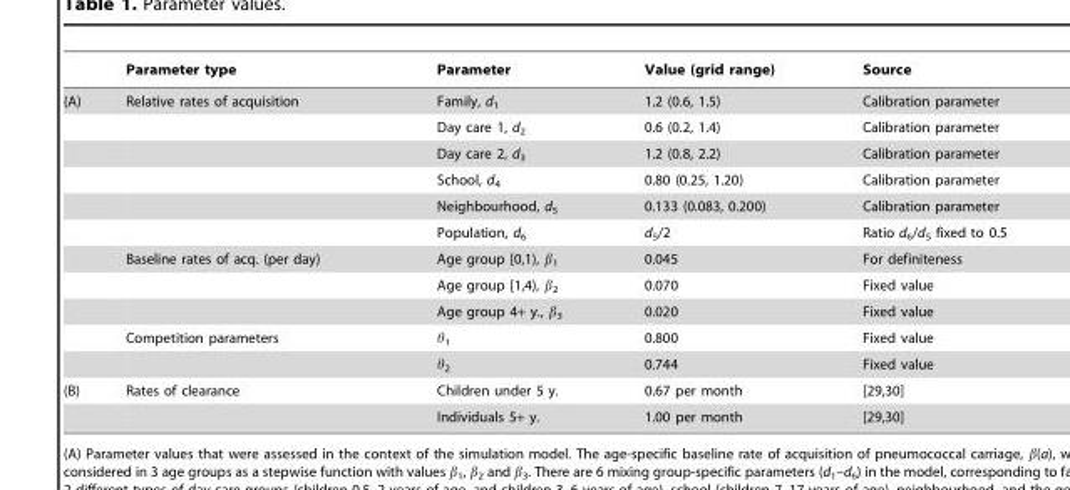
<table><thead><tr><td></td><td>Parameter type</td><td>Parameter</td><td>Value (grid range)</td><td>Source</td></tr></thead><tbody><tr><td rowspan="11">(A)</td><td>Relative rates of acquisition</td><td>Family, d<sub>1</sub></td><td>1.2 (0.6, 1.5)</td><td>Calibration parameter</td></tr><tr><td></td><td>Day care 1, d<sub>2</sub></td><td>0.6 (0.2, 1.4)</td><td>Calibration parameter</td></tr><tr><td></td><td>Day care 2, d<sub>3</sub></td><td>1.2 (0.8, 2.2)</td><td>Calibration parameter</td></tr><tr><td></td><td>School, d<sub>4</sub></td><td>0.80 (0.25, 1.20)</td><td>Calibration parameter</td></tr><tr><td></td><td>Neighbourhood, d<sub>5</sub></td><td>0.133 (0.083, 0.200)</td><td>Calibration parameter</td></tr><tr><td></td><td>Population, d<sub>6</sub></td><td>d<sub>5</sub>/2</td><td>Ratio d<sub>6</sub>/d<sub>5</sub> fixed to 0.5</td></tr><tr><td>Baseline rates of acq. (per day)</td><td>Age group [0,1), β<sub>1</sub></td><td>0.045</td><td>For definiteness</td></tr><tr><td></td><td>Age group [1,4), β<sub>2</sub></td><td>0.070</td><td>Fixed value</td></tr><tr><td></td><td>Age group 4+ y., β<sub>3</sub></td><td>0.020</td><td>Fixed value</td></tr><tr><td>Competition parameters</td><td>θ<sub>1</sub></td><td>0.800</td><td>Fixed value</td></tr><tr><td></td><td>θ<sub>2</sub></td><td>0.744</td><td>Fixed value</td></tr><tr><td rowspan="2">(B)</td><td>Rates of clearance</td><td>Children under 5 y.</td><td>0.67 per month</td><td>[29,30]</td></tr><tr><td></td><td>Individuals 5+ y.</td><td>1.00 per month</td><td>[29,30]</td></tr></tbody></table>